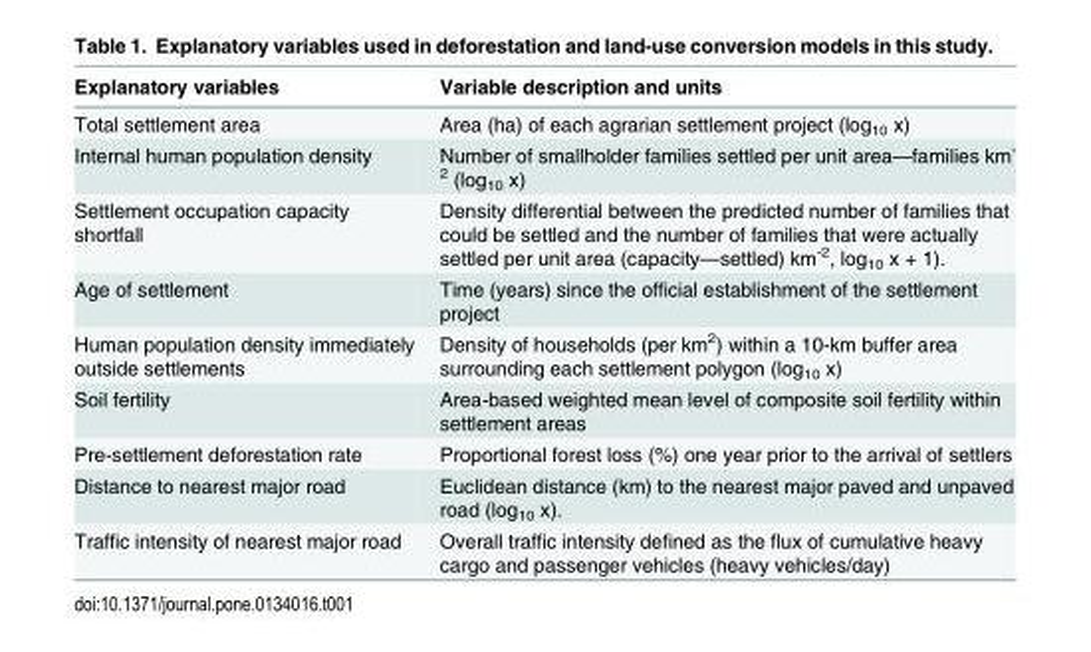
<table><thead><tr><td>Explanatory variables</td><td>Variable description and units</td></tr></thead><tbody><tr><td>Total settlement area</td><td>Area (ha) of each agrarian settlement project (log<sub>10</sub> x)</td></tr><tr><td>Internal human population density</td><td>Number of smallholder families settled per unit area—families km<sup>- 2</sup> (log<sub>10</sub> x)</td></tr><tr><td>Settlement occupation capacity shortfall</td><td>Density differential between the predicted number of families that could be settled and the number of families that were actually settled per unit area (capacity—settled) km<sup>-2</sup>, log<sub>10</sub> x + 1).</td></tr><tr><td>Age of settlement</td><td>Time (years) since the official establishment of the settlement project</td></tr><tr><td>Human population density immediately outside settlements</td><td>Density of households (per km<sup>2</sup>) within a 10-km buffer area surrounding each settlement polygon (log<sub>10</sub> x)</td></tr><tr><td>Soil fertility</td><td>Area-based weighted mean level of composite soil fertility within settlement areas</td></tr><tr><td>Pre-settlement deforestation rate</td><td>Proportional forest loss (%) one year prior to the arrival of settlers</td></tr><tr><td>Distance to nearest major road</td><td>Euclidean distance (km) to the nearest major paved and unpaved road (log<sub>10</sub> x).</td></tr><tr><td>Traffic intensity of nearest major road</td><td>Overall traffic intensity defined as the flux of cumulative heavy cargo and passenger vehicles (heavy vehicles/day)</td></tr></tbody></table>